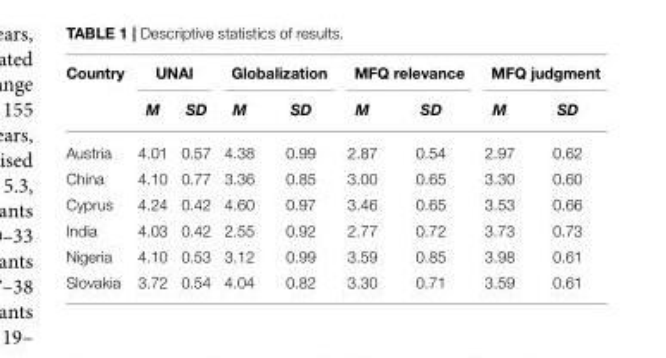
<table><thead><tr><td rowspan="2">Country</td><td colspan="2">UNAI</td><td colspan="2">Globalization</td><td colspan="2">MFQ relevance</td><td colspan="2">MFQ judgment</td></tr><tr><td>M</td><td>SD</td><td>M</td><td>SD</td><td>M</td><td>SD</td><td>M</td><td>SD</td></tr></thead><tbody><tr><td>Austria</td><td>4.01</td><td>0.57</td><td>4.38</td><td>0.99</td><td>2.87</td><td>0.54</td><td>2.97</td><td>0.62</td></tr><tr><td>China</td><td>4.10</td><td>0.77</td><td>3.36</td><td>0.85</td><td>3.00</td><td>0.65</td><td>3.30</td><td>0.60</td></tr><tr><td>Cyprus</td><td>4.24</td><td>0.42</td><td>4.60</td><td>0.97</td><td>3.46</td><td>0.65</td><td>3.53</td><td>0.66</td></tr><tr><td>India</td><td>4.03</td><td>0.42</td><td>2.55</td><td>0.92</td><td>2.77</td><td>0.72</td><td>3.73</td><td>0.73</td></tr><tr><td>Nigeria</td><td>4.10</td><td>0.53</td><td>3.12</td><td>0.99</td><td>3.59</td><td>0.85</td><td>3.98</td><td>0.61</td></tr><tr><td>Slovakia</td><td>3.72</td><td>0.54</td><td>4.04</td><td>0.82</td><td>3.30</td><td>0.71</td><td>3.59</td><td>0.61</td></tr></tbody></table>